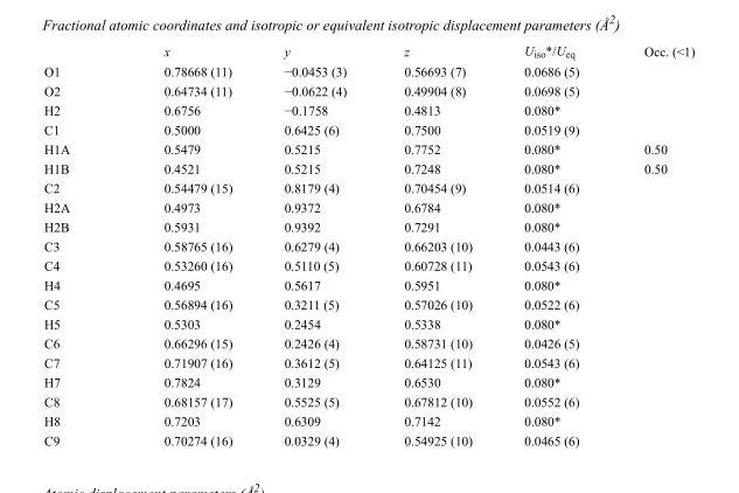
<table><thead><tr><td></td><td>x</td><td>y</td><td>z</td><td>U<sub>iso</sub>*/U<sub>eq</sub></td><td>Occ. (&lt;1)</td></tr></thead><tbody><tr><td>O1</td><td>0.78668 (11)</td><td>−0.0453 (3)</td><td>0.56693 (7)</td><td>0.0686 (5)</td><td></td></tr><tr><td>O2</td><td>0.64734 (11)</td><td>−0.0622 (4)</td><td>0.49904 (8)</td><td>0.0698 (5)</td><td></td></tr><tr><td>H2</td><td>0.6756</td><td>−0.1758</td><td>0.4813</td><td>0.080*</td><td></td></tr><tr><td>C1</td><td>0.5000</td><td>0.6425 (6)</td><td>0.7500</td><td>0.0519 (9)</td><td></td></tr><tr><td>H1A</td><td>0.5479</td><td>0.5215</td><td>0.7752</td><td>0.080*</td><td>0.50</td></tr><tr><td>H1B</td><td>0.4521</td><td>0.5215</td><td>0.7248</td><td>0.080*</td><td>0.50</td></tr><tr><td>C2</td><td>0.54479 (15)</td><td>0.8179 (4)</td><td>0.70454 (9)</td><td>0.0514 (6)</td><td></td></tr><tr><td>H2A</td><td>0.4973</td><td>0.9372</td><td>0.6784</td><td>0.080*</td><td></td></tr><tr><td>H2B</td><td>0.5931</td><td>0.9392</td><td>0.7291</td><td>0.080*</td><td></td></tr><tr><td>C3</td><td>0.58765 (16)</td><td>0.6279 (4)</td><td>0.66203 (10)</td><td>0.0443 (6)</td><td></td></tr><tr><td>C4</td><td>0.53260 (16)</td><td>0.5110 (5)</td><td>0.60728 (11)</td><td>0.0543 (6)</td><td></td></tr><tr><td>H4</td><td>0.4695</td><td>0.5617</td><td>0.5951</td><td>0.080*</td><td></td></tr><tr><td>C5</td><td>0.56894 (16)</td><td>0.3211 (5)</td><td>0.57026 (10)</td><td>0.0522 (6)</td><td></td></tr><tr><td>H5</td><td>0.5303</td><td>0.2454</td><td>0.5338</td><td>0.080*</td><td></td></tr><tr><td>C6</td><td>0.66296 (15)</td><td>0.2426 (4)</td><td>0.58731 (10)</td><td>0.0426 (5)</td><td></td></tr><tr><td>C7</td><td>0.71907 (16)</td><td>0.3612 (5)</td><td>0.64125 (11)</td><td>0.0543 (6)</td><td></td></tr><tr><td>H7</td><td>0.7824</td><td>0.3129</td><td>0.6530</td><td>0.080*</td><td></td></tr><tr><td>C8</td><td>0.68157 (17)</td><td>0.5525 (5)</td><td>0.67812 (10)</td><td>0.0552 (6)</td><td></td></tr><tr><td>H8</td><td>0.7203</td><td>0.6309</td><td>0.7142</td><td>0.080*</td><td></td></tr><tr><td>C9</td><td>0.70274 (16)</td><td>0.0329 (4)</td><td>0.54925 (10)</td><td>0.0465 (6)</td><td></td></tr></tbody></table>